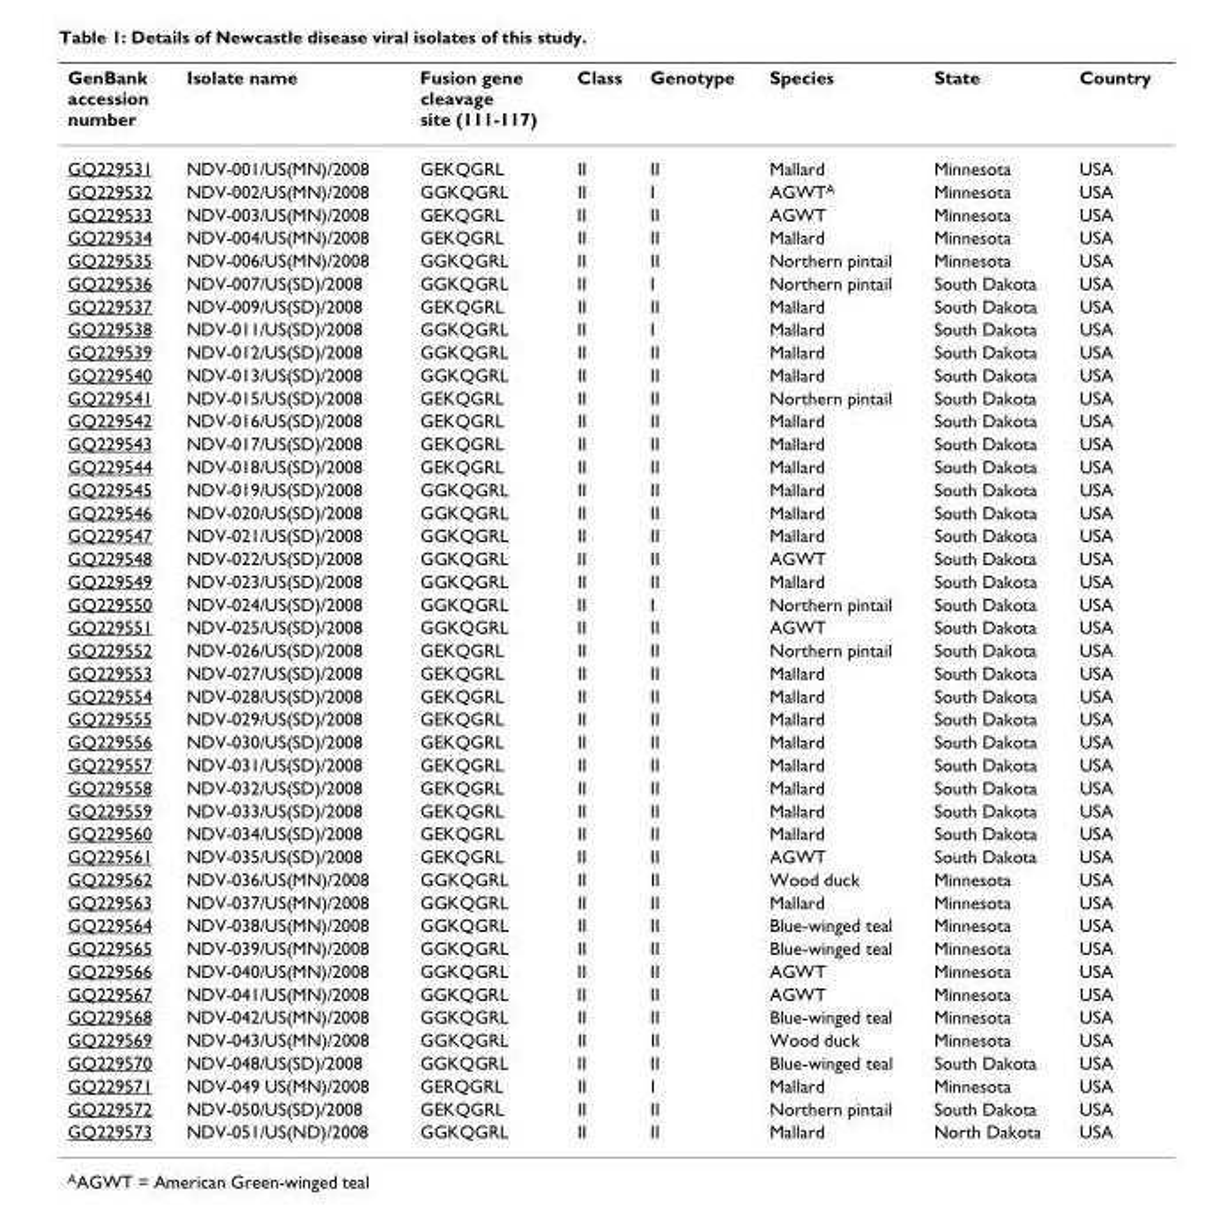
<table><thead><tr><td>GenBank accession number</td><td>Isolate name</td><td>Fusion gene cleavage site (111-117)</td><td>Class</td><td>Genotype</td><td>Species</td><td>State</td><td>Country</td></tr></thead><tbody><tr><td>GQ229531</td><td>NDV-001/US(MN)/2008</td><td>GEKQGRL</td><td>II</td><td>II</td><td>Mallard</td><td>Minnesota</td><td>USA</td></tr><tr><td>GQ229532</td><td>NDV-002/US(MN)/2008</td><td>GGKQGRL</td><td>II</td><td>I</td><td>AGWT<sup>A</sup></td><td>Minnesota</td><td>USA</td></tr><tr><td>GQ229533</td><td>NDV-003/US(MN)/2008</td><td>GEKQGRL</td><td>II</td><td>II</td><td>AGWT</td><td>Minnesota</td><td>USA</td></tr><tr><td>GQ229534</td><td>NDV-004/US(MN)/2008</td><td>GEKQGRL</td><td>II</td><td>II</td><td>Mallard</td><td>Minnesota</td><td>USA</td></tr><tr><td>GQ229535</td><td>NDV-006/US(MN)/2008</td><td>GGKQGRL</td><td>II</td><td>II</td><td>Northern pintail</td><td>Minnesota</td><td>USA</td></tr><tr><td>GQ229536</td><td>NDV-007/US(SD)/2008</td><td>GGKQGRL</td><td>II</td><td>I</td><td>Northern pintail</td><td>South Dakota</td><td>USA</td></tr><tr><td>GQ229537</td><td>NDV-009/US(SD)/2008</td><td>GEKQGRL</td><td>II</td><td>II</td><td>Mallard</td><td>South Dakota</td><td>USA</td></tr><tr><td>GQ229538</td><td>NDV-011/US(SD)/2008</td><td>GGKQGRL</td><td>II</td><td>I</td><td>Mallard</td><td>South Dakota</td><td>USA</td></tr><tr><td>GQ229539</td><td>NDV-012/US(SD)/2008</td><td>GGKQGRL</td><td>II</td><td>II</td><td>Mallard</td><td>South Dakota</td><td>USA</td></tr><tr><td>GQ229540</td><td>NDV-013/US(SD)/2008</td><td>GGKQGRL</td><td>II</td><td>II</td><td>Mallard</td><td>South Dakota</td><td>USA</td></tr><tr><td>GQ229541</td><td>NDV-015/US(SD)/2008</td><td>GEKQGRL</td><td>II</td><td>II</td><td>Northern pintail</td><td>South Dakota</td><td>USA</td></tr><tr><td>GQ229542</td><td>NDV-016/US(SD)/2008</td><td>GEKQGRL</td><td>II</td><td>II</td><td>Mallard</td><td>South Dakota</td><td>USA</td></tr><tr><td>GQ229543</td><td>NDV-017/US(SD)/2008</td><td>GEKQGRL</td><td>II</td><td>II</td><td>Mallard</td><td>South Dakota</td><td>USA</td></tr><tr><td>GQ229544</td><td>NDV-018/US(SD)/2008</td><td>GEKQGRL</td><td>II</td><td>II</td><td>Mallard</td><td>South Dakota</td><td>USA</td></tr><tr><td>GQ229545</td><td>NDV-019/US(SD)/2008</td><td>GGKQGRL</td><td>II</td><td>II</td><td>Mallard</td><td>South Dakota</td><td>USA</td></tr><tr><td>GQ229546</td><td>NDV-020/US(SD)/2008</td><td>GGKQGRL</td><td>II</td><td>II</td><td>Mallard</td><td>South Dakota</td><td>USA</td></tr><tr><td>GQ229547</td><td>NDV-021/US(SD)/2008</td><td>GGKQGRL</td><td>II</td><td>II</td><td>Mallard</td><td>South Dakota</td><td>USA</td></tr><tr><td>GQ229548</td><td>NDV-022/US(SD)/2008</td><td>GGKQGRL</td><td>II</td><td>II</td><td>AGWT</td><td>South Dakota</td><td>USA</td></tr><tr><td>GQ229549</td><td>NDV-023/US(SD)/2008</td><td>GGKQGRL</td><td>II</td><td>II</td><td>Mallard</td><td>South Dakota</td><td>USA</td></tr><tr><td>GQ229550</td><td>NDV-024/US(SD)/2008</td><td>GGKQGRL</td><td>II</td><td>I</td><td>Northern pintail</td><td>South Dakota</td><td>USA</td></tr><tr><td>GQ229551</td><td>NDV-025/US(SD)/2008</td><td>GGKQGRL</td><td>II</td><td>II</td><td>AGWT</td><td>South Dakota</td><td>USA</td></tr><tr><td>GQ229552</td><td>NDV-026/US(SD)/2008</td><td>GEKQGRL</td><td>II</td><td>II</td><td>Northern pintail</td><td>South Dakota</td><td>USA</td></tr><tr><td>GQ229553</td><td>NDV-027/US(SD)/2008</td><td>GEKQGRL</td><td>II</td><td>II</td><td>Mallard</td><td>South Dakota</td><td>USA</td></tr><tr><td>GQ229554</td><td>NDV-028/US(SD)/2008</td><td>GEKQGRL</td><td>II</td><td>II</td><td>Mallard</td><td>South Dakota</td><td>USA</td></tr><tr><td>GQ229555</td><td>NDV-029/US(SD)/2008</td><td>GEKQGRL</td><td>II</td><td>II</td><td>Mallard</td><td>South Dakota</td><td>USA</td></tr><tr><td>GQ229556</td><td>NDV-030/US(SD)/2008</td><td>GEKQGRL</td><td>II</td><td>II</td><td>Mallard</td><td>South Dakota</td><td>USA</td></tr><tr><td>GQ229557</td><td>NDV-031/US(SD)/2008</td><td>GEKQGRL</td><td>II</td><td>II</td><td>Mallard</td><td>South Dakota</td><td>USA</td></tr><tr><td>GQ229558</td><td>NDV-032/US(SD)/2008</td><td>GEKQGRL</td><td>II</td><td>II</td><td>Mallard</td><td>South Dakota</td><td>USA</td></tr><tr><td>GQ229559</td><td>NDV-033/US(SD)/2008</td><td>GEKQGRL</td><td>II</td><td>II</td><td>Mallard</td><td>South Dakota</td><td>USA</td></tr><tr><td>GQ229560</td><td>NDV-034/US(SD)/2008</td><td>GEKQGRL</td><td>II</td><td>II</td><td>Mallard</td><td>South Dakota</td><td>USA</td></tr><tr><td>GQ229561</td><td>NDV-035/US(SD)/2008</td><td>GEKQGRL</td><td>II</td><td>II</td><td>AGWT</td><td>South Dakota</td><td>USA</td></tr><tr><td>GQ229562</td><td>NDV-036/US(MN)/2008</td><td>GGKQGRL</td><td>II</td><td>II</td><td>Wood duck</td><td>Minnesota</td><td>USA</td></tr><tr><td>GQ229563</td><td>NDV-037/US(MN)/2008</td><td>GGKQGRL</td><td>II</td><td>II</td><td>Mallard</td><td>Minnesota</td><td>USA</td></tr><tr><td>GQ229564</td><td>NDV-038/US(MN)/2008</td><td>GGKQGRL</td><td>II</td><td>II</td><td>Blue-winged teal</td><td>Minnesota</td><td>USA</td></tr><tr><td>GQ229565</td><td>NDV-039/US(MN)/2008</td><td>GGKQGRL</td><td>II</td><td>II</td><td>Blue-winged teal</td><td>Minnesota</td><td>USA</td></tr><tr><td>GQ229566</td><td>NDV-040/US(MN)/2008</td><td>GGKQGRL</td><td>II</td><td>II</td><td>AGWT</td><td>Minnesota</td><td>USA</td></tr><tr><td>GQ229567</td><td>NDV-041/US(MN)/2008</td><td>GGKQGRL</td><td>II</td><td>II</td><td>AGWT</td><td>Minnesota</td><td>USA</td></tr><tr><td>GQ229568</td><td>NDV-042/US(MN)/2008</td><td>GGKQGRL</td><td>II</td><td>II</td><td>Blue-winged teal</td><td>Minnesota</td><td>USA</td></tr><tr><td>GQ229569</td><td>NDV-043/US(MN)/2008</td><td>GGKQGRL</td><td>II</td><td>II</td><td>Wood duck</td><td>Minnesota</td><td>USA</td></tr><tr><td>GQ229570</td><td>NDV-048/US(SD)/2008</td><td>GGKQGRL</td><td>II</td><td>II</td><td>Blue-winged teal</td><td>South Dakota</td><td>USA</td></tr><tr><td>GQ229571</td><td>NDV-049 US(MN)/2008</td><td>GERQGRL</td><td>II</td><td>I</td><td>Mallard</td><td>Minnesota</td><td>USA</td></tr><tr><td>GQ229572</td><td>NDV-050/US(SD)/2008</td><td>GEKQGRL</td><td>II</td><td>II</td><td>Northern pintail</td><td>South Dakota</td><td>USA</td></tr><tr><td>GQ229573</td><td>NDV-051/US(ND)/2008</td><td>GGKQGRL</td><td>II</td><td>II</td><td>Mallard</td><td>North Dakota</td><td>USA</td></tr></tbody></table>